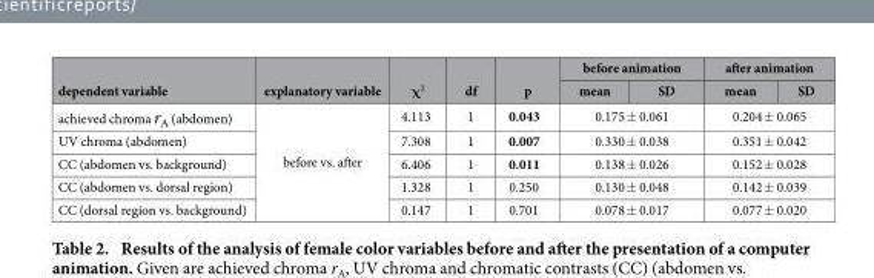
<table><thead><tr><td rowspan="2">dependent variable</td><td rowspan="2">explanatory variable</td><td rowspan="2">χ<sup>2</sup></td><td rowspan="2">df</td><td rowspan="2">p</td><td colspan="2">before animation</td><td colspan="2">after animation</td></tr><tr><td>mean</td><td>SD</td><td>mean</td><td>SD</td></tr></thead><tbody><tr><td>achieved chroma r<sub>A</sub> (abdomen)</td><td rowspan="5">before vs. after</td><td>4.113</td><td>1</td><td>0.043</td><td colspan="2">0.175 ± 0.061</td><td colspan="2">0.204 ± 0.065</td></tr><tr><td>UV chroma (abdomen)</td><td>7.308</td><td>1</td><td>0.007</td><td colspan="2">0.330 ± 0.038</td><td colspan="2">0.351 ± 0.042</td></tr><tr><td>CC (abdomen vs. background)</td><td>6.406</td><td>1</td><td>0.011</td><td colspan="2">0.138 ± 0.026</td><td colspan="2">0.152 ± 0.028</td></tr><tr><td>CC (abdomen vs. dorsal region)</td><td>1.328</td><td>1</td><td>0.250</td><td colspan="2">0.130 ± 0.048</td><td colspan="2">0.142 ± 0.039</td></tr><tr><td>CC (dorsal region vs. background)</td><td>0.147</td><td>1</td><td>0.701</td><td colspan="2">0.078 ± 0.017</td><td colspan="2">0.077 ± 0.020</td></tr></tbody></table>